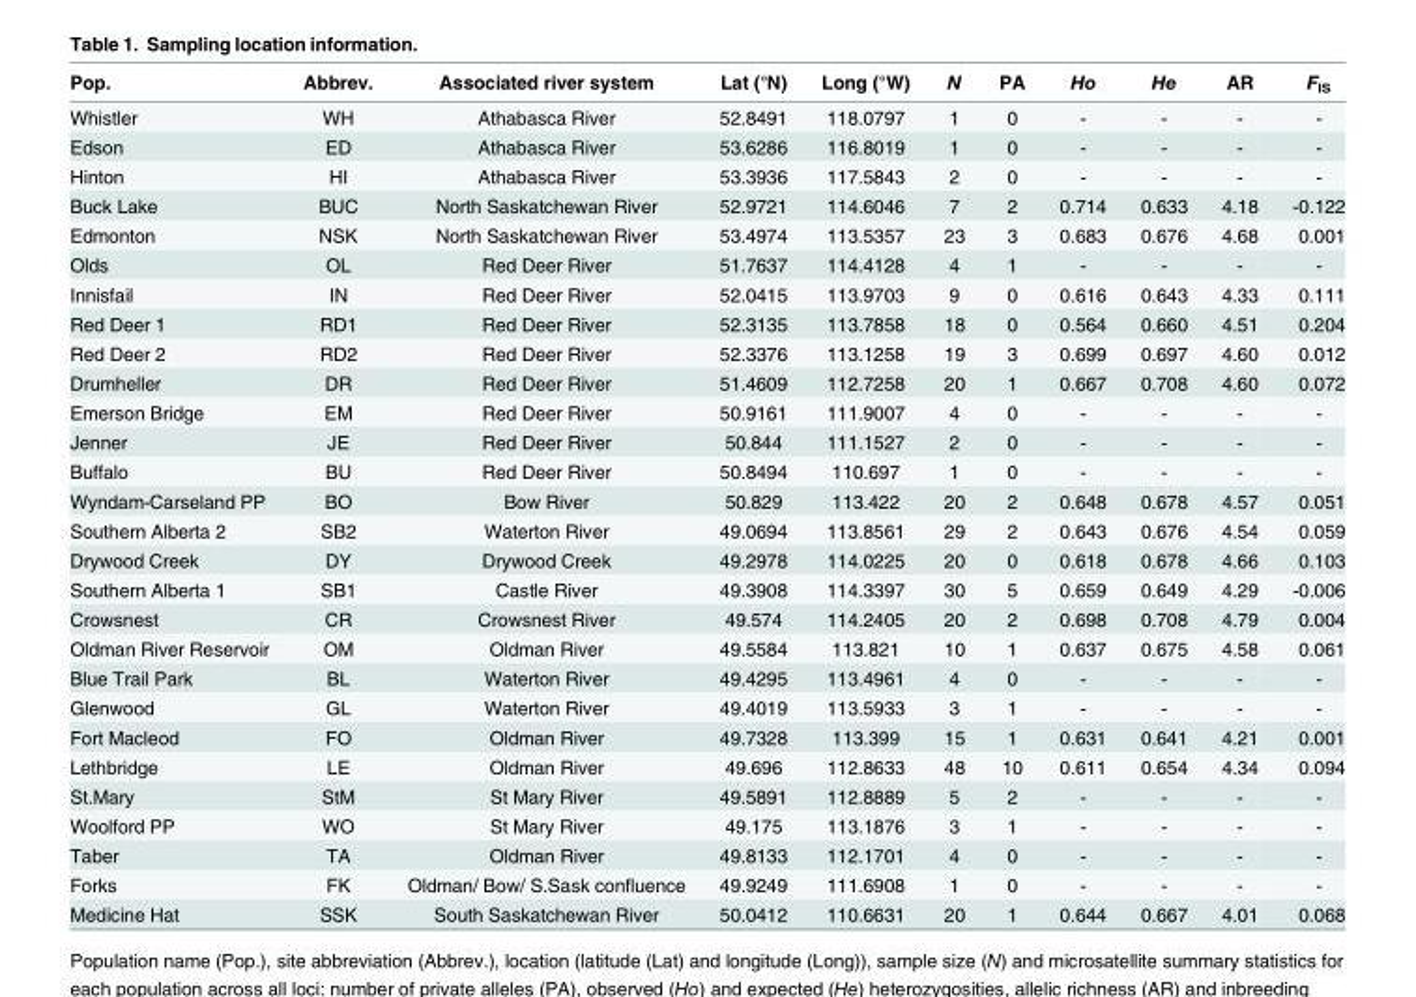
<table><thead><tr><td>Pop.</td><td>Abbrev.</td><td>Associated river system</td><td>Lat (°N)</td><td>Long (°W)</td><td>N</td><td>PA</td><td>Ho</td><td>He</td><td>AR</td><td>F<sub>IS</sub></td></tr></thead><tbody><tr><td>Whistler</td><td>WH</td><td>Athabasca River</td><td>52.8491</td><td>118.0797</td><td>1</td><td>0</td><td>-</td><td>-</td><td>-</td><td>-</td></tr><tr><td>Edson</td><td>ED</td><td>Athabasca River</td><td>53.6286</td><td>116.8019</td><td>1</td><td>0</td><td>-</td><td>-</td><td>-</td><td>-</td></tr><tr><td>Hinton</td><td>HI</td><td>Athabasca River</td><td>53.3936</td><td>117.5843</td><td>2</td><td>0</td><td>-</td><td>-</td><td>-</td><td>-</td></tr><tr><td>Buck Lake</td><td>BUC</td><td>North Saskatchewan River</td><td>52.9721</td><td>114.6046</td><td>7</td><td>2</td><td>0.714</td><td>0.633</td><td>4.18</td><td>-0.122</td></tr><tr><td>Edmonton</td><td>NSK</td><td>North Saskatchewan River</td><td>53.4974</td><td>113.5357</td><td>23</td><td>3</td><td>0.683</td><td>0.676</td><td>4.68</td><td>0.001</td></tr><tr><td>Olds</td><td>OL</td><td>Red Deer River</td><td>51.7637</td><td>114.4128</td><td>4</td><td>1</td><td>-</td><td>-</td><td>-</td><td>-</td></tr><tr><td>Innisfail</td><td>IN</td><td>Red Deer River</td><td>52.0415</td><td>113.9703</td><td>9</td><td>0</td><td>0.616</td><td>0.643</td><td>4.33</td><td>0.111</td></tr><tr><td>Red Deer 1</td><td>RD1</td><td>Red Deer River</td><td>52.3135</td><td>113.7858</td><td>18</td><td>0</td><td>0.564</td><td>0.660</td><td>4.51</td><td>0.204</td></tr><tr><td>Red Deer 2</td><td>RD2</td><td>Red Deer River</td><td>52.3376</td><td>113.1258</td><td>19</td><td>3</td><td>0.699</td><td>0.697</td><td>4.60</td><td>0.012</td></tr><tr><td>Drumheller</td><td>DR</td><td>Red Deer River</td><td>51.4609</td><td>112.7258</td><td>20</td><td>1</td><td>0.667</td><td>0.708</td><td>4.60</td><td>0.072</td></tr><tr><td>Emerson Bridge</td><td>EM</td><td>Red Deer River</td><td>50.9161</td><td>111.9007</td><td>4</td><td>0</td><td>-</td><td>-</td><td>-</td><td>-</td></tr><tr><td>Jenner</td><td>JE</td><td>Red Deer River</td><td>50.844</td><td>111.1527</td><td>2</td><td>0</td><td>-</td><td>-</td><td>-</td><td>-</td></tr><tr><td>Buffalo</td><td>BU</td><td>Red Deer River</td><td>50.8494</td><td>110.697</td><td>1</td><td>0</td><td>-</td><td>-</td><td>-</td><td>-</td></tr><tr><td>Wyndam-Carseland PP</td><td>BO</td><td>Bow River</td><td>50.829</td><td>113.422</td><td>20</td><td>2</td><td>0.648</td><td>0.678</td><td>4.57</td><td>0.051</td></tr><tr><td>Southern Alberta 2</td><td>SB2</td><td>Waterton River</td><td>49.0694</td><td>113.8561</td><td>29</td><td>2</td><td>0.643</td><td>0.676</td><td>4.54</td><td>0.059</td></tr><tr><td>Drywood Creek</td><td>DY</td><td>Drywood Creek</td><td>49.2978</td><td>114.0225</td><td>20</td><td>0</td><td>0.618</td><td>0.678</td><td>4.66</td><td>0.103</td></tr><tr><td>Southern Alberta 1</td><td>SB1</td><td>Castle River</td><td>49.3908</td><td>114.3397</td><td>30</td><td>5</td><td>0.659</td><td>0.649</td><td>4.29</td><td>-0.006</td></tr><tr><td>Crowsnest</td><td>CR</td><td>Crowsnest River</td><td>49.574</td><td>114.2405</td><td>20</td><td>2</td><td>0.698</td><td>0.708</td><td>4.79</td><td>0.004</td></tr><tr><td>Oldman River Reservoir</td><td>OM</td><td>Oldman River</td><td>49.5584</td><td>113.821</td><td>10</td><td>1</td><td>0.637</td><td>0.675</td><td>4.58</td><td>0.061</td></tr><tr><td>Blue Trail Park</td><td>BL</td><td>Waterton River</td><td>49.4295</td><td>113.4961</td><td>4</td><td>0</td><td>-</td><td>-</td><td>-</td><td>-</td></tr><tr><td>Glenwood</td><td>GL</td><td>Waterton River</td><td>49.4019</td><td>113.5933</td><td>3</td><td>1</td><td>-</td><td>-</td><td>-</td><td>-</td></tr><tr><td>Fort Macleod</td><td>FO</td><td>Oldman River</td><td>49.7328</td><td>113.399</td><td>15</td><td>1</td><td>0.631</td><td>0.641</td><td>4.21</td><td>0.001</td></tr><tr><td>Lethbridge</td><td>LE</td><td>Oldman River</td><td>49.696</td><td>112.8633</td><td>48</td><td>10</td><td>0.611</td><td>0.654</td><td>4.34</td><td>0.094</td></tr><tr><td>St.Mary</td><td>StM</td><td>St Mary River</td><td>49.5891</td><td>112.8889</td><td>5</td><td>2</td><td>-</td><td>-</td><td>-</td><td>-</td></tr><tr><td>Woolford PP</td><td>WO</td><td>St Mary River</td><td>49.175</td><td>113.1876</td><td>3</td><td>1</td><td>-</td><td>-</td><td>-</td><td>-</td></tr><tr><td>Taber</td><td>TA</td><td>Oldman River</td><td>49.8133</td><td>112.1701</td><td>4</td><td>0</td><td>-</td><td>-</td><td>-</td><td>-</td></tr><tr><td>Forks</td><td>FK</td><td>Oldman/ Bow/ S.Sask confluence</td><td>49.9249</td><td>111.6908</td><td>1</td><td>0</td><td>-</td><td>-</td><td>-</td><td>-</td></tr><tr><td>Medicine Hat</td><td>SSK</td><td>South Saskatchewan River</td><td>50.0412</td><td>110.6631</td><td>20</td><td>1</td><td>0.644</td><td>0.667</td><td>4.01</td><td>0.068</td></tr></tbody></table>